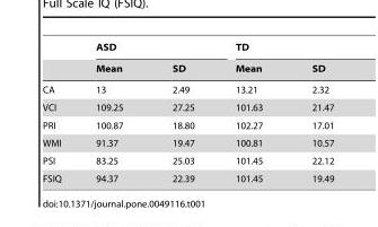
<table><thead><tr><td rowspan="2"></td><td colspan="2">ASD</td><td colspan="2">TD</td></tr><tr><td>Mean</td><td>SD</td><td>Mean</td><td>SD</td></tr></thead><tbody><tr><td>CA</td><td>13</td><td>2.49</td><td>13.21</td><td>2.32</td></tr><tr><td>VCI</td><td>109.25</td><td>27.25</td><td>101.63</td><td>21.47</td></tr><tr><td>PRI</td><td>100.87</td><td>18.80</td><td>102.27</td><td>17.01</td></tr><tr><td>WMI</td><td>91.37</td><td>19.47</td><td>100.81</td><td>10.57</td></tr><tr><td>PSI</td><td>83.25</td><td>25.03</td><td>101.45</td><td>22.12</td></tr><tr><td>FSIQ</td><td>94.37</td><td>22.39</td><td>101.45</td><td>19.49</td></tr></tbody></table>